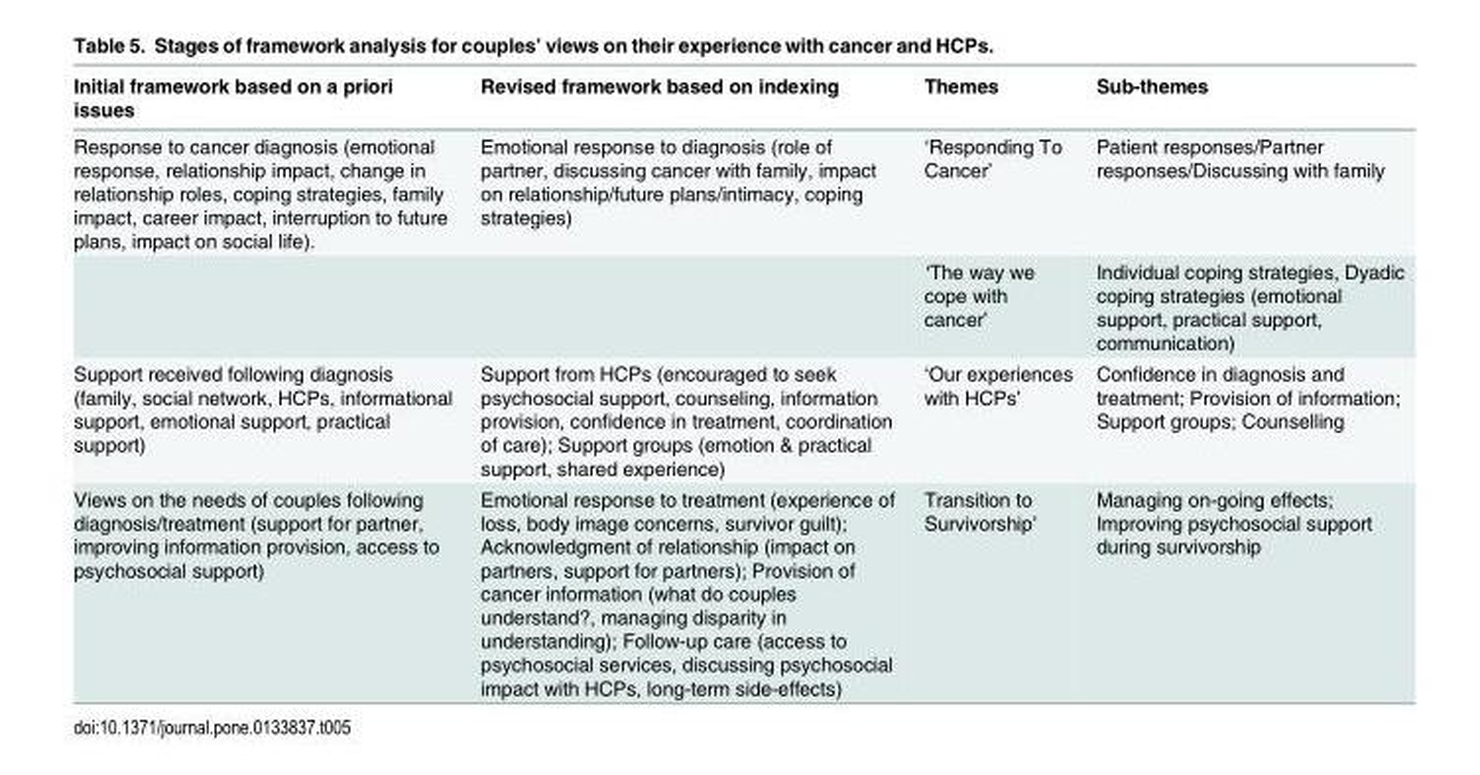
<table><thead><tr><td>Initial framework based on a priori issues</td><td>Revised framework based on indexing</td><td>Themes</td><td>Sub-themes</td></tr></thead><tbody><tr><td rowspan="2">Response to cancer diagnosis (emotional response, relationship impact, change in relationship roles, coping strategies, family impact, career impact, interruption to future plans, impact on social life).</td><td>Emotional response to diagnosis (role of partner, discussing cancer with family, impact on relationship/future plans/intimacy, coping strategies)</td><td>‘Responding To Cancer’</td><td>Patient responses/Partner responses/Discussing with family</td></tr><tr><td></td><td>‘The way we cope with cancer’</td><td>Individual coping strategies, Dyadic coping strategies (emotional support, practical support, communication)</td></tr><tr><td>Support received following diagnosis (family, social network, HCPs, informational support, emotional support, practical support)</td><td>Support from HCPs (encouraged to seek psychosocial support, counseling, information provision, confidence in treatment, coordination of care); Support groups (emotion &amp; practical support, shared experience)</td><td>‘Our experiences with HCPs’</td><td>Confidence in diagnosis and treatment; Provision of information; Support groups; Counselling</td></tr><tr><td>Views on the needs of couples following diagnosis/treatment (support for partner, improving information provision, access to psychosocial support)</td><td>Emotional response to treatment (experience of loss, body image concerns, survivor guilt); Acknowledgment of relationship (impact on partners, support for partners); Provision of cancer information (what do couples understand?, managing disparity in understanding); Follow-up care (access to psychosocial services, discussing psychosocial impact with HCPs, long-term side-effects)</td><td>Transition to Survivorship’</td><td>Managing on-going effects; Improving psychosocial support during survivorship</td></tr></tbody></table>